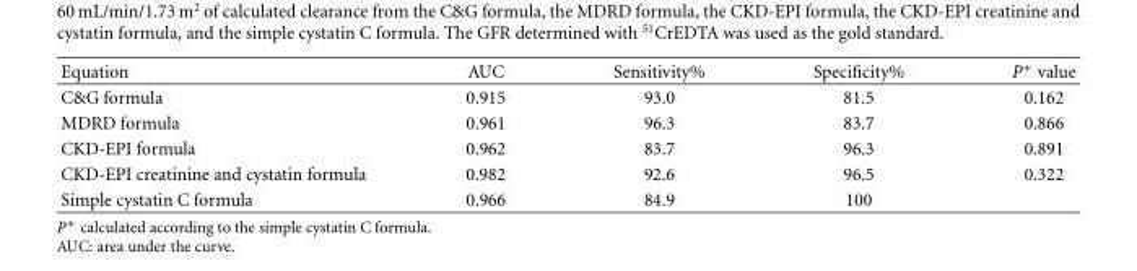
<table><thead><tr><td>Equation</td><td>AUC</td><td>Sensitivity%</td><td>Specificity%</td><td>P∗ value</td></tr></thead><tbody><tr><td>C&amp;G formula</td><td>0.915</td><td>93.0</td><td>81.5</td><td>0.162</td></tr><tr><td>MDRD formula</td><td>0.961</td><td>96.3</td><td>83.7</td><td>0.866</td></tr><tr><td>CKD-EPI formula</td><td>0.962</td><td>83.7</td><td>96.3</td><td>0.891</td></tr><tr><td>CKD-EPI creatinine and cystatin formula</td><td>0.982</td><td>92.6</td><td>96.5</td><td>0.322</td></tr><tr><td>Simple cystatin C formula</td><td>0.966</td><td>84.9</td><td>100</td><td></td></tr></tbody></table>